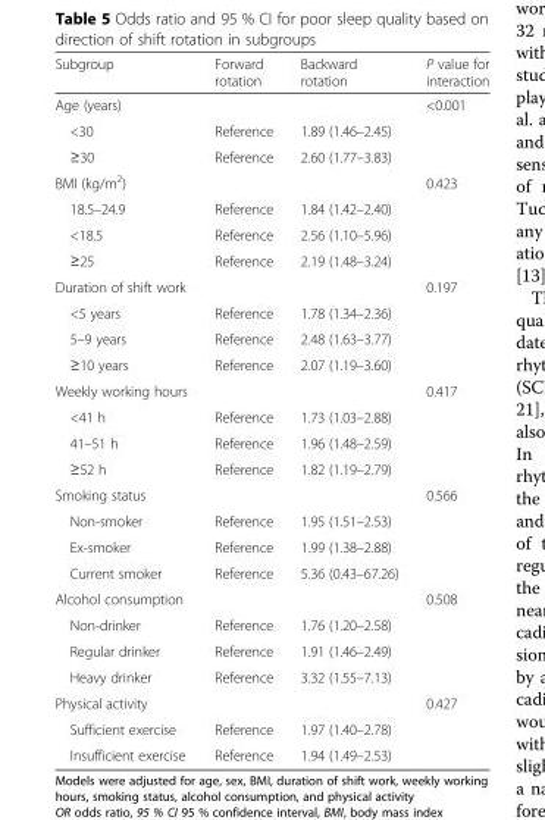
<table><thead><tr><td>Subgroup</td><td>Forward rotation</td><td>Backward rotation</td><td>P value for interaction</td></tr></thead><tbody><tr><td>Age (years)</td><td></td><td></td><td>&lt;0.001</td></tr><tr><td>&lt;30</td><td>Reference</td><td>1.89 (1.46–2.45)</td><td></td></tr><tr><td>≥30</td><td>Reference</td><td>2.60 (1.77–3.83)</td><td></td></tr><tr><td>BMI (kg/m<sup>2</sup>)</td><td></td><td></td><td>0.423</td></tr><tr><td>18.5–24.9</td><td>Reference</td><td>1.84 (1.42–2.40)</td><td></td></tr><tr><td>&lt;18.5</td><td>Reference</td><td>2.56 (1.10–5.96)</td><td></td></tr><tr><td>≥25</td><td>Reference</td><td>2.19 (1.48–3.24)</td><td></td></tr><tr><td>Duration of shift work</td><td></td><td></td><td>0.197</td></tr><tr><td>&lt;5 years</td><td>Reference</td><td>1.78 (1.34–2.36)</td><td></td></tr><tr><td>5–9 years</td><td>Reference</td><td>2.48 (1.63–3.77)</td><td></td></tr><tr><td>≥10 years</td><td>Reference</td><td>2.07 (1.19–3.60)</td><td></td></tr><tr><td>Weekly working hours</td><td></td><td></td><td>0.417</td></tr><tr><td>&lt;41 h</td><td>Reference</td><td>1.73 (1.03–2.88)</td><td></td></tr><tr><td>41–51 h</td><td>Reference</td><td>1.96 (1.48–2.59)</td><td></td></tr><tr><td>≥52 h</td><td>Reference</td><td>1.82 (1.19–2.79)</td><td></td></tr><tr><td>Smoking status</td><td></td><td></td><td>0.566</td></tr><tr><td>Non-smoker</td><td>Reference</td><td>1.95 (1.51–2.53)</td><td></td></tr><tr><td>Ex-smoker</td><td>Reference</td><td>1.99 (1.38–2.88)</td><td></td></tr><tr><td>Current smoker</td><td>Reference</td><td>5.36 (0.43–67.26)</td><td></td></tr><tr><td>Alcohol consumption</td><td></td><td></td><td>0.508</td></tr><tr><td>Non-drinker</td><td>Reference</td><td>1.76 (1.20–2.58)</td><td></td></tr><tr><td>Regular drinker</td><td>Reference</td><td>1.91 (1.46–2.49)</td><td></td></tr><tr><td>Heavy drinker</td><td>Reference</td><td>3.32 (1.55–7.13)</td><td></td></tr><tr><td>Physical activity</td><td></td><td></td><td>0.427</td></tr><tr><td>Sufficient exercise</td><td>Reference</td><td>1.97 (1.40–2.78)</td><td></td></tr><tr><td>Insufficient exercise</td><td>Reference</td><td>1.94 (1.49–2.53)</td><td></td></tr></tbody></table>